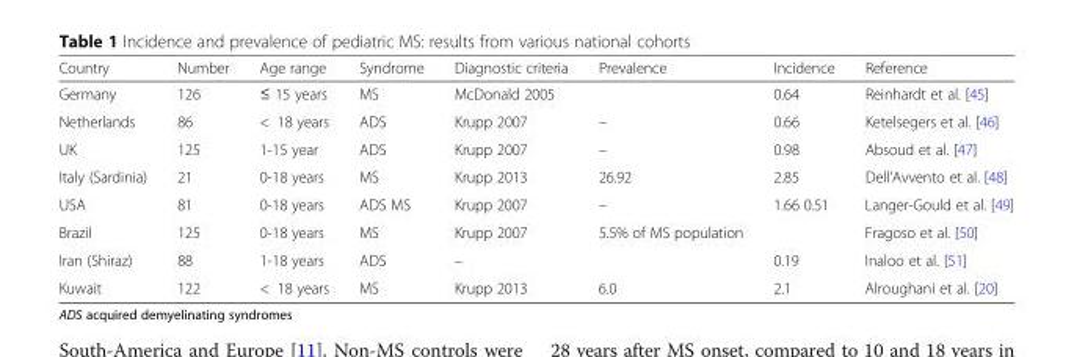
<table><thead><tr><td>Country</td><td>Number</td><td>Age range</td><td>Syndrome</td><td>Diagnostic criteria</td><td>Prevalence</td><td>Incidence</td><td>Reference</td></tr></thead><tbody><tr><td>Germany</td><td>126</td><td>≤ 15 years</td><td>MS</td><td>McDonald 2005</td><td></td><td>0.64</td><td>Reinhardt et al. [45]</td></tr><tr><td>Netherlands</td><td>86</td><td>&lt; 18 years</td><td>ADS</td><td>Krupp 2007</td><td>–</td><td>0.66</td><td>Ketelsegers et al. [46]</td></tr><tr><td>UK</td><td>125</td><td>1-15 year</td><td>ADS</td><td>Krupp 2007</td><td>–</td><td>0.98</td><td>Absoud et al. [47]</td></tr><tr><td>Italy (Sardinia)</td><td>21</td><td>0-18 years</td><td>MS</td><td>Krupp 2013</td><td>26.92</td><td>2.85</td><td>Dell’Avvento et al. [48]</td></tr><tr><td>USA</td><td>81</td><td>0-18 years</td><td>ADS MS</td><td>Krupp 2007</td><td>–</td><td>1.66 0.51</td><td>Langer-Gould et al. [49]</td></tr><tr><td>Brazil</td><td>125</td><td>0-18 years</td><td>MS</td><td>Krupp 2007</td><td>5.5% of MS population</td><td></td><td>Fragoso et al. [50]</td></tr><tr><td>Iran (Shiraz)</td><td>88</td><td>1-18 years</td><td>ADS</td><td>–</td><td></td><td>0.19</td><td>Inaloo et al. [51]</td></tr><tr><td>Kuwait</td><td>122</td><td>&lt; 18 years</td><td>MS</td><td>Krupp 2013</td><td>6.0</td><td>2.1</td><td>Alroughani et al. [20]</td></tr></tbody></table>